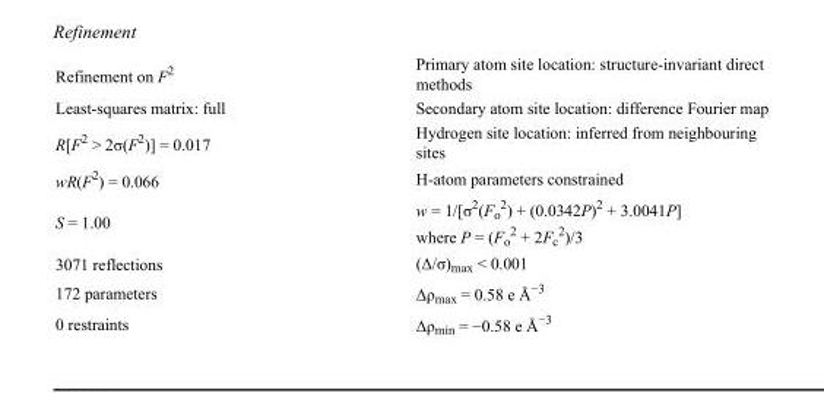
<table><tbody><tr><td>Refinement on F<sup>2</sup></td><td>Primary atom site location: structure-invariant direct methods</td></tr><tr><td>Least-squares matrix: full</td><td>Secondary atom site location: difference Fourier map</td></tr><tr><td>R[F<sup>2</sup> &gt; 2σ(F<sup>2</sup>)] = 0.017</td><td>Hydrogen site location: inferred from neighbouring sites</td></tr><tr><td>wR(F<sup>2</sup>) = 0.066</td><td>H-atom parameters constrained</td></tr><tr><td>S = 1.00</td><td>w = 1/[σ<sup>2</sup>(F<sub>o</sub> <sup>2</sup>) + (0.0342P)<sup>2</sup> + 3.0041P] where P = (F<sub>o</sub> <sup>2</sup> + 2F<sub>c</sub> <sup>2</sup>)/3</td></tr><tr><td>3071 reflections</td><td>(Δ/σ)<sub>max</sub> &lt; 0.001</td></tr><tr><td>172 parameters</td><td>Δρ<sub>max</sub> = 0.58 e Å<sup>−3</sup></td></tr><tr><td>0 restraints</td><td>Δρ<sub>min</sub> = −0.58 e Å<sup>−3</sup></td></tr></tbody></table>